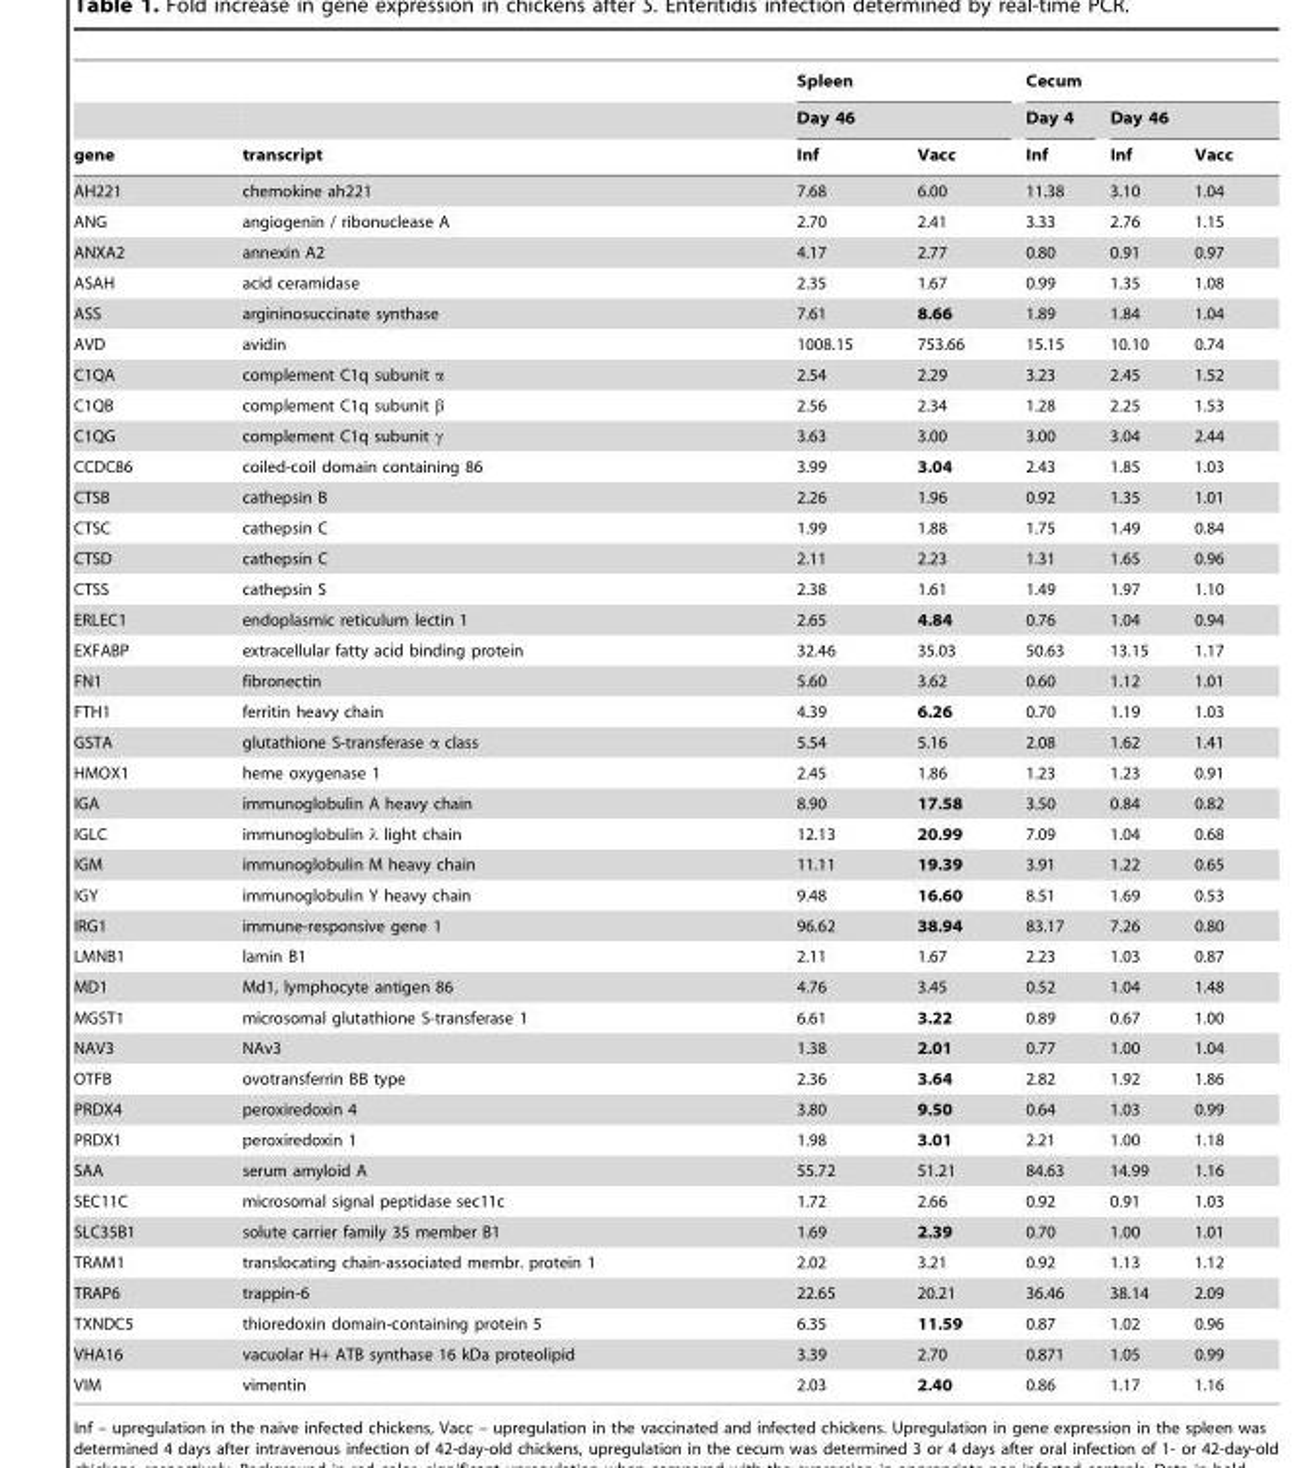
<table><thead><tr><td rowspan="3">gene</td><td rowspan="3">transcript</td><td rowspan="2" colspan="2">Spleen Day 46</td><td colspan="3">Cecum</td></tr><tr><td rowspan="2">Day 4 Inf</td><td colspan="2">Day 46</td></tr><tr><td>Inf</td><td>Vacc</td><td>Inf</td><td>Vacc</td></tr></thead><tbody><tr><td>AH221</td><td>chemokine ah221</td><td>7.68</td><td>6.00</td><td>11.38</td><td>3.10</td><td>1.04</td></tr><tr><td>ANG</td><td>angiogenin / ribonuclease A</td><td>2.70</td><td>2.41</td><td>3.33</td><td>2.76</td><td>1.15</td></tr><tr><td>ANXA2</td><td>annexin A2</td><td>4.17</td><td>2.77</td><td>0.80</td><td>0.91</td><td>0.97</td></tr><tr><td>ASAH</td><td>acid ceramidase</td><td>2.35</td><td>1.67</td><td>0.99</td><td>1.35</td><td>1.08</td></tr><tr><td>ASS</td><td>argininosuccinate synthase</td><td>7.61</td><td>8.66</td><td>1.89</td><td>1.84</td><td>1.04</td></tr><tr><td>AVD</td><td>avidin</td><td>1008.15</td><td>753.66</td><td>15.15</td><td>10.10</td><td>0.74</td></tr><tr><td>C1QA</td><td>complement C1q subunit α</td><td>2.54</td><td>2.29</td><td>3.23</td><td>2.45</td><td>1.52</td></tr><tr><td>C1QB</td><td>complement C1q subunit β</td><td>2.56</td><td>2.34</td><td>1.28</td><td>2.25</td><td>1.53</td></tr><tr><td>C1QG</td><td>complement C1q subunit γ</td><td>3.63</td><td>3.00</td><td>3.00</td><td>3.04</td><td>2.44</td></tr><tr><td>CCDC86</td><td>coiled-coil domain containing 86</td><td>3.99</td><td>3.04</td><td>2.43</td><td>1.85</td><td>1.03</td></tr><tr><td>CTSB</td><td>cathepsin B</td><td>2.26</td><td>1.96</td><td>0.92</td><td>1.35</td><td>1.01</td></tr><tr><td>CTSC</td><td>cathepsin C</td><td>1.99</td><td>1.88</td><td>1.75</td><td>1.49</td><td>0.84</td></tr><tr><td>CTSD</td><td>cathepsin C</td><td>2.11</td><td>2.23</td><td>1.31</td><td>1.65</td><td>0.96</td></tr><tr><td>CTSS</td><td>cathepsin S</td><td>2.38</td><td>1.61</td><td>1.49</td><td>1.97</td><td>1.10</td></tr><tr><td>ERLEC1</td><td>endoplasmic reticulum lectin 1</td><td>2.65</td><td>4.84</td><td>0.76</td><td>1.04</td><td>0.94</td></tr><tr><td>EXFABP</td><td>extracellular fatty acid binding protein</td><td>32.46</td><td>35.03</td><td>50.63</td><td>13.15</td><td>1.17</td></tr><tr><td>FN1</td><td>fibronectin</td><td>5.60</td><td>3.62</td><td>0.60</td><td>1.12</td><td>1.01</td></tr><tr><td>FTH1</td><td>ferritin heavy chain</td><td>4.39</td><td>6.26</td><td>0.70</td><td>1.19</td><td>1.03</td></tr><tr><td>GSTA</td><td>glutathione S-transferase α class</td><td>5.54</td><td>5.16</td><td>2.08</td><td>1.62</td><td>1.41</td></tr><tr><td>HMOX1</td><td>heme oxygenase 1</td><td>2.45</td><td>1.86</td><td>1.23</td><td>1.23</td><td>0.91</td></tr><tr><td>IGA</td><td>immunoglobulin A heavy chain</td><td>8.90</td><td>17.58</td><td>3.50</td><td>0.84</td><td>0.82</td></tr><tr><td>IGLC</td><td>immunoglobulin λ light chain</td><td>12.13</td><td>20.99</td><td>7.09</td><td>1.04</td><td>0.68</td></tr><tr><td>IGM</td><td>immunoglobulin M heavy chain</td><td>11.11</td><td>19.39</td><td>3.91</td><td>1.22</td><td>0.65</td></tr><tr><td>IGY</td><td>immunoglobulin Y heavy chain</td><td>9.48</td><td>16.60</td><td>8.51</td><td>1.69</td><td>0.53</td></tr><tr><td>IRG1</td><td>immune-responsive gene 1</td><td>96.62</td><td>38.94</td><td>83.17</td><td>7.26</td><td>0.80</td></tr><tr><td>LMNB1</td><td>lamin B1</td><td>2.11</td><td>1.67</td><td>2.23</td><td>1.03</td><td>0.87</td></tr><tr><td>MD1</td><td>Md1, lymphocyte antigen 86</td><td>4.76</td><td>3.45</td><td>0.52</td><td>1.04</td><td>1.48</td></tr><tr><td>MGST1</td><td>microsomal glutathione S-transferase 1</td><td>6.61</td><td>3.22</td><td>0.89</td><td>0.67</td><td>1.00</td></tr><tr><td>NAV3</td><td>NAv3</td><td>1.38</td><td>2.01</td><td>0.77</td><td>1.00</td><td>1.04</td></tr><tr><td>OTFB</td><td>ovotransferrin BB type</td><td>2.36</td><td>3.64</td><td>2.82</td><td>1.92</td><td>1.86</td></tr><tr><td>PRDX4</td><td>peroxiredoxin 4</td><td>3.80</td><td>9.50</td><td>0.64</td><td>1.03</td><td>0.99</td></tr><tr><td>PRDX1</td><td>peroxiredoxin 1</td><td>1.98</td><td>3.01</td><td>2.21</td><td>1.00</td><td>1.18</td></tr><tr><td>SAA</td><td>serum amyloid A</td><td>55.72</td><td>51.21</td><td>84.63</td><td>14.99</td><td>1.16</td></tr><tr><td>SEC11C</td><td>microsomal signal peptidase sec11c</td><td>1.72</td><td>2.66</td><td>0.92</td><td>0.91</td><td>1.03</td></tr><tr><td>SLC35B1</td><td>solute carrier family 35 member B1</td><td>1.69</td><td>2.39</td><td>0.70</td><td>1.00</td><td>1.01</td></tr><tr><td>TRAM1</td><td>translocating chain-associated membr. protein 1</td><td>2.02</td><td>3.21</td><td>0.92</td><td>1.13</td><td>1.12</td></tr><tr><td>TRAP6</td><td>trappin-6</td><td>22.65</td><td>20.21</td><td>36.46</td><td>38.14</td><td>2.09</td></tr><tr><td>TXNDC5</td><td>thioredoxin domain-containing protein 5</td><td>6.35</td><td>11.59</td><td>0.87</td><td>1.02</td><td>0.96</td></tr><tr><td>VHA16</td><td>vacuolar H+ ATB synthase 16 kDa proteolipid</td><td>3.39</td><td>2.70</td><td>0.871</td><td>1.05</td><td>0.99</td></tr><tr><td>VIM</td><td>vimentin</td><td>2.03</td><td>2.40</td><td>0.86</td><td>1.17</td><td>1.16</td></tr></tbody></table>